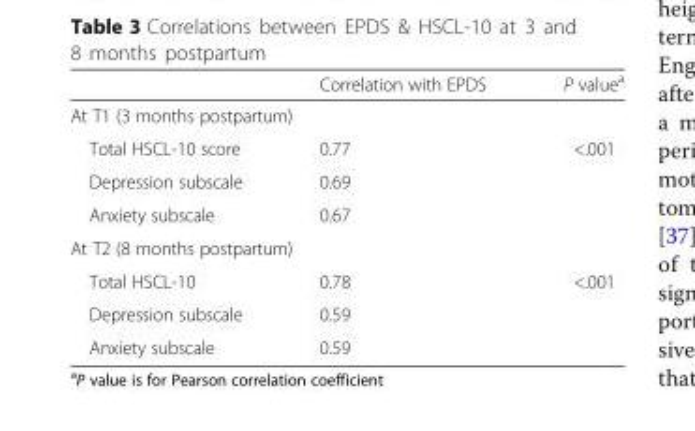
<table><thead><tr><td></td><td>Correlation with EPDS</td><td>P value<sup>a</sup></td></tr></thead><tbody><tr><td colspan="3">At T1 (3 months postpartum)</td></tr><tr><td>Total HSCL-10 score</td><td>0.77</td><td rowspan="3">&lt;.001</td></tr><tr><td>Depression subscale</td><td>0.69</td></tr><tr><td>Anxiety subscale</td><td>0.67</td></tr><tr><td colspan="3">At T2 (8 months postpartum)</td></tr><tr><td>Total HSCL-10</td><td>0.78</td><td rowspan="3">&lt;.001</td></tr><tr><td>Depression subscale</td><td>0.59</td></tr><tr><td>Anxiety subscale</td><td>0.59</td></tr></tbody></table>